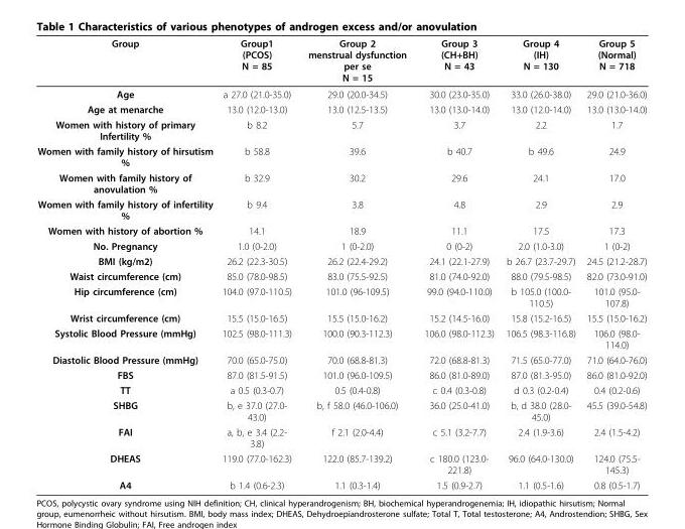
<table><thead><tr><td>Group</td><td>Group1 (PCOS) N = 85</td><td>Group 2 menstrual dysfunction per se N = 15</td><td>Group 3 (CH+BH) N = 43</td><td>Group 4 (IH) N = 130</td><td>Group 5 (Normal) N = 718</td></tr></thead><tbody><tr><td>Age</td><td>a 27.0 (21.0-35.0)</td><td>29.0 (20.0-34.5)</td><td>30.0 (23.0-35.0)</td><td>33.0 (26.0-38.0)</td><td>29.0 (21.0-36.0)</td></tr><tr><td>Age at menarche</td><td>13.0 (12.0-13.0)</td><td>13.0 (12.5-13.5)</td><td>13.0 (13.0-14.0)</td><td>13.0 (12.0-14.0)</td><td>13.0 (13.0-14.0)</td></tr><tr><td>Women with history of primary Infertility %</td><td>b 8.2</td><td>5.7</td><td>3.7</td><td>2.2</td><td>1.7</td></tr><tr><td>Women with family history of hirsutism %</td><td>b 58.8</td><td>39.6</td><td>b 40.7</td><td>b 49.6</td><td>24.9</td></tr><tr><td>Women with family history of anovulation %</td><td>b 32.9</td><td>30.2</td><td>29.6</td><td>24.1</td><td>17.0</td></tr><tr><td>Women with family history of infertility %</td><td>b 9.4</td><td>3.8</td><td>4.8</td><td>2.9</td><td>2.9</td></tr><tr><td>Women with history of abortion %</td><td>14.1</td><td>18.9</td><td>11.1</td><td>17.5</td><td>17.3</td></tr><tr><td>No. Pregnancy</td><td>1.0 (0-2.0)</td><td>1 (0-2.0)</td><td>0 (0-2)</td><td>2.0 (1.0-3.0)</td><td>1 (0-2)</td></tr><tr><td>BMI (kg/m2)</td><td>26.2 (22.3-30.5)</td><td>26.2 (22.4-29.2)</td><td>24.1 (22.1-27.9)</td><td>b 26.7 (23.7-29.7)</td><td>24.5 (21.2-28.7)</td></tr><tr><td>Waist circumference (cm)</td><td>85.0 (78.0-98.5)</td><td>83.0 (75.5-92.5)</td><td>81.0 (74.0-92.0)</td><td>88.0 (79.5-98.5)</td><td>82.0 (73.0-91.0)</td></tr><tr><td>Hip circumference (cm)</td><td>104.0 (97.0-110.5)</td><td>101.0 (96-109.5)</td><td>99.0 (94.0-110.0)</td><td>b 105.0 (100.0- 110.5)</td><td>101.0 (95.0- 107.8)</td></tr><tr><td>Wrist circumference (cm)</td><td>15.5 (15.0-16.5)</td><td>15.5 (15.0-16.2)</td><td>15.2 (14.5-16.0)</td><td>15.8 (15.2-16.5)</td><td>15.5 (15.0-16.2)</td></tr><tr><td>Systolic Blood Pressure (mmHg)</td><td>102.5 (98.0-111.3)</td><td>100.0 (90.3-112.3)</td><td>106.0 (98.0-112.3)</td><td>106.5 (98.3-116.8)</td><td>106.0 (98.0- 114.0)</td></tr><tr><td>Diastolic Blood Pressure (mmHg)</td><td>70.0 (65.0-75.0)</td><td>70.0 (68.8-81.3)</td><td>72.0 (68.8-81.3)</td><td>71.5 (65.0-77.0)</td><td>71.0 (64.0-76.0)</td></tr><tr><td>FBS</td><td>87.0 (81.5-91.5)</td><td>101.0 (96.0-109.5)</td><td>86.0 (81.0-89.0)</td><td>87.0 (81.3-95.0)</td><td>86.0 (81.0-92.0)</td></tr><tr><td>TT</td><td>a 0.5 (0.3-0.7)</td><td>0.5 (0.4-0.8)</td><td>c 0.4 (0.3-0.8)</td><td>d 0.3 (0.2-0.4)</td><td>0.4 (0.2-0.6)</td></tr><tr><td>SHBG</td><td>b, e 37.0 (27.0- 43.0)</td><td>b, f 58.0 (46.0-106.0)</td><td>36.0 (25.0-41.0)</td><td>b, d 38.0 (28.0- 45.0)</td><td>45.5 (39.0-54.8)</td></tr><tr><td>FAI</td><td>a, b, e 3.4 (2.2- 3.8)</td><td>f 2.1 (2.0-4.4)</td><td>c 5.1 (3.2-7.7)</td><td>2.4 (1.9-3.6)</td><td>2.4 (1.5-4.2)</td></tr><tr><td>DHEAS</td><td>119.0 (77.0-162.3)</td><td>122.0 (85.7-139.2)</td><td>c 180.0 (123.0- 221.8)</td><td>96.0 (64.0-130.0)</td><td>124.0 (75.5- 145.3)</td></tr><tr><td>A4</td><td>b 1.4 (0.6-2.3)</td><td>1.1 (0.3-1.4)</td><td>1.5 (0.9-2.7)</td><td>1.1 (0.5-1.6)</td><td>0.8 (0.5-1.7)</td></tr></tbody></table>